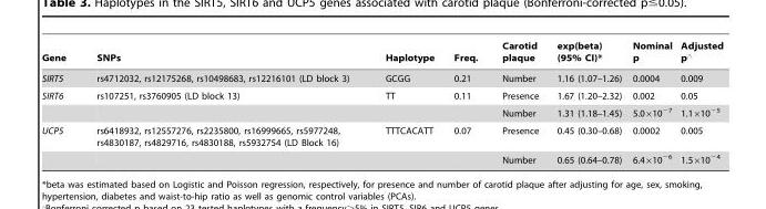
<table><thead><tr><td>Gene</td><td>SNPs</td><td>Haplotype</td><td>Freq.</td><td>Carotid plaque</td><td>exp(beta) (95% CI)*</td><td>Nominal p</td><td>Adjusted p‘</td></tr></thead><tbody><tr><td>SIRT5</td><td>rs4712032, rs12175268, rs10498683, rs12216101 (LD block 3)</td><td>GCGG</td><td>0.21</td><td>Number</td><td>1.16 (1.07–1.26)</td><td>0.0004</td><td>0.009</td></tr><tr><td rowspan="2">SIRT6</td><td>rs107251, rs3760905 (LD block 13)</td><td>TT</td><td>0.11</td><td>Presence</td><td>1.67 (1.20–2.32)</td><td>0.002</td><td>0.05</td></tr><tr><td></td><td></td><td></td><td>Number</td><td>1.31 (1.18–1.45)</td><td>5.0×10<sup>−7</sup></td><td>1.1×10<sup>−5</sup></td></tr><tr><td rowspan="2">UCP5</td><td>rs6418932, rs12557276, rs2235800, rs16999665, rs5977248, rs4830187, rs4829716, rs4830188, rs5932754 (LD Block 16)</td><td>TTTCACATT</td><td>0.07</td><td>Presence</td><td>0.45 (0.30–0.68)</td><td>0.0002</td><td>0.005</td></tr><tr><td></td><td></td><td></td><td>Number</td><td>0.65 (0.64–0.78)</td><td>6.4×10<sup>−6</sup></td><td>1.5×10<sup>−4</sup></td></tr></tbody></table>